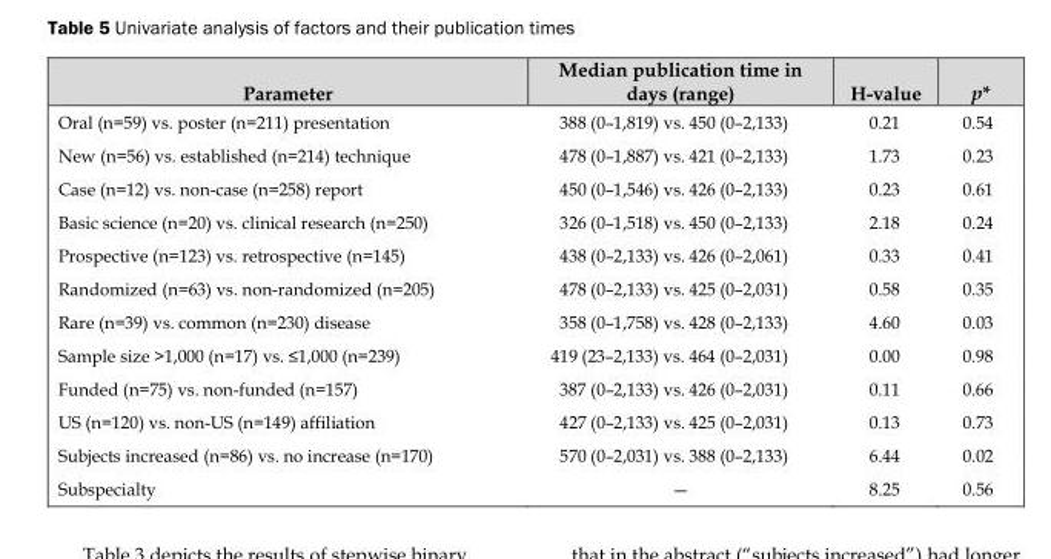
<table><thead><tr><td>Parameter</td><td>Median publication time in days (range)</td><td>H-value</td><td>p*</td></tr></thead><tbody><tr><td>Oral (n=59) vs. poster (n=211) presentation</td><td>388 (0–1,819) vs. 450 (0–2,133)</td><td>0.21</td><td>0.54</td></tr><tr><td>New (n=56) vs. established (n=214) technique</td><td>478 (0–1,887) vs. 421 (0–2,133)</td><td>1.73</td><td>0.23</td></tr><tr><td>Case (n=12) vs. non-case (n=258) report</td><td>450 (0–1,546) vs. 426 (0–2,133)</td><td>0.23</td><td>0.61</td></tr><tr><td>Basic science (n=20) vs. clinical research (n=250)</td><td>326 (0–1,518) vs. 450 (0–2,133)</td><td>2.18</td><td>0.24</td></tr><tr><td>Prospective (n=123) vs. retrospective (n=145)</td><td>438 (0–2,133) vs. 426 (0–2,061)</td><td>0.33</td><td>0.41</td></tr><tr><td>Randomized (n=63) vs. non-randomized (n=205)</td><td>478 (0–2,133) vs. 425 (0–2,031)</td><td>0.58</td><td>0.35</td></tr><tr><td>Rare (n=39) vs. common (n=230) disease</td><td>358 (0–1,758) vs. 428 (0–2,133)</td><td>4.60</td><td>0.03</td></tr><tr><td>Sample size &gt;1,000 (n=17) vs. ≤1,000 (n=239)</td><td>419 (23–2,133) vs. 464 (0–2,031)</td><td>0.00</td><td>0.98</td></tr><tr><td>Funded (n=75) vs. non-funded (n=157)</td><td>387 (0–2,133) vs. 426 (0–2,031)</td><td>0.11</td><td>0.66</td></tr><tr><td>US (n=120) vs. non-US (n=149) affiliation</td><td>427 (0–2,133) vs. 425 (0–2,031)</td><td>0.13</td><td>0.73</td></tr><tr><td>Subjects increased (n=86) vs. no increase (n=170)</td><td>570 (0–2,031) vs. 388 (0–2,133)</td><td>6.44</td><td>0.02</td></tr><tr><td>Subspecialty</td><td>—</td><td>8.25</td><td>0.56</td></tr></tbody></table>